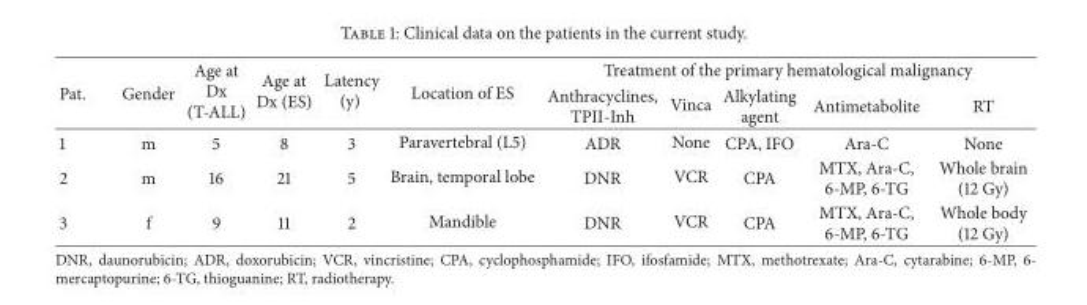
<table><thead><tr><td rowspan="2">Pat.</td><td rowspan="2">Gender</td><td rowspan="2">Age at Dx (T-ALL)</td><td rowspan="2">Age at Dx (ES)</td><td rowspan="2">Latency (y)</td><td rowspan="2">Location of ES</td><td colspan="5">Treatment of the primary hematological malignancy</td></tr><tr><td>Anthracyclines, TPII-Inh</td><td>Vinca</td><td>Alkylating agent</td><td>Antimetabolite</td><td>RT</td></tr></thead><tbody><tr><td>1</td><td>m</td><td>5</td><td>8</td><td>3</td><td>Paravertebral (L5)</td><td>ADR</td><td>None</td><td>CPA, IFO</td><td>Ara-C</td><td>None</td></tr><tr><td>2</td><td>m</td><td>16</td><td>21</td><td>5</td><td>Brain, temporal lobe</td><td>DNR</td><td>VCR</td><td>CPA</td><td>MTX, Ara-C, 6-MP, 6-TG</td><td>Whole brain (12 Gy)</td></tr><tr><td>3</td><td>f</td><td>9</td><td>11</td><td>2</td><td>Mandible</td><td>DNR</td><td>VCR</td><td>CPA</td><td>MTX, Ara-C, 6-MP, 6-TG</td><td>Whole body (12 Gy)</td></tr></tbody></table>